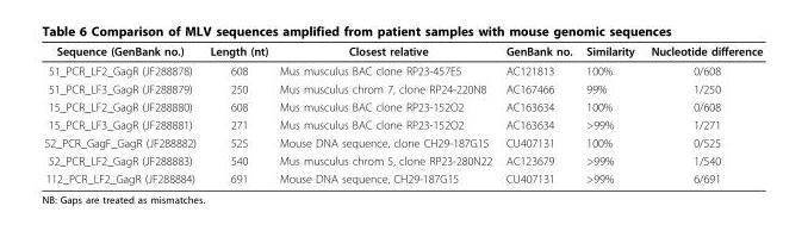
<table><thead><tr><td>Sequence (GenBank no.)</td><td>Length (nt)</td><td>Closest relative</td><td>GenBank no.</td><td>Similarity</td><td>Nucleotide difference</td></tr></thead><tbody><tr><td>51_PCR_LF2_GagR (JF288878)</td><td>608</td><td>Mus musculus BAC clone RP23-457E5</td><td>AC121813</td><td>100%</td><td>0/608</td></tr><tr><td>51_PCR_LF3_GagR (JF288879)</td><td>250</td><td>Mus musculus chrom 7, clone RP24-220N8</td><td>AC167466</td><td>99%</td><td>1/250</td></tr><tr><td>15_PCR_LF2_GagR (JF288880)</td><td>608</td><td>Mus musculus BAC clone RP23-152O2</td><td>AC163634</td><td>100%</td><td>0/608</td></tr><tr><td>15_PCR_LF3_GagR (JF288881)</td><td>271</td><td>Mus musculus BAC clone RP23-152O2</td><td>AC163634</td><td>&gt;99%</td><td>1/271</td></tr><tr><td>52_PCR_GagF_GagR (JF288882)</td><td>525</td><td>Mouse DNA sequence, clone CH29-187G15</td><td>CU407131</td><td>100%</td><td>0/525</td></tr><tr><td>52_PCR_LF2_GagR (JF288883)</td><td>540</td><td>Mus musculus chrom 5, clone RP23-280N22</td><td>AC123679</td><td>&gt;99%</td><td>1/540</td></tr><tr><td>112_PCR_LF2_GagR (JF288884)</td><td>691</td><td>Mouse DNA sequence, CH29-187G15</td><td>CU407131</td><td>&gt;99%</td><td>6/691</td></tr></tbody></table>